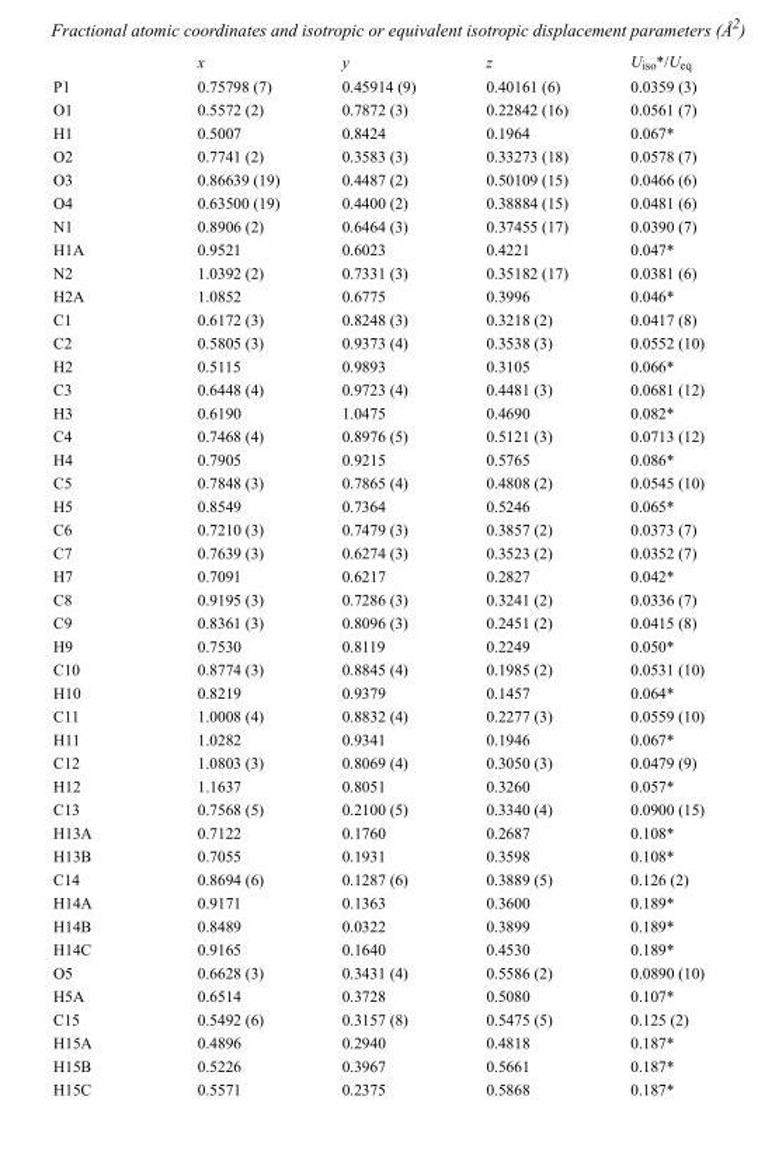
<table><thead><tr><td></td><td>x</td><td>y</td><td>z</td><td>U<sub>iso</sub>*/U<sub>eq</sub></td></tr></thead><tbody><tr><td>P1</td><td>0.75798 (7)</td><td>0.45914 (9)</td><td>0.40161 (6)</td><td>0.0359 (3)</td></tr><tr><td>O1</td><td>0.5572 (2)</td><td>0.7872 (3)</td><td>0.22842 (16)</td><td>0.0561 (7)</td></tr><tr><td>H1</td><td>0.5007</td><td>0.8424</td><td>0.1964</td><td>0.067*</td></tr><tr><td>O2</td><td>0.7741 (2)</td><td>0.3583 (3)</td><td>0.33273 (18)</td><td>0.0578 (7)</td></tr><tr><td>O3</td><td>0.86639 (19)</td><td>0.4487 (2)</td><td>0.50109 (15)</td><td>0.0466 (6)</td></tr><tr><td>O4</td><td>0.63500 (19)</td><td>0.4400 (2)</td><td>0.38884 (15)</td><td>0.0481 (6)</td></tr><tr><td>N1</td><td>0.8906 (2)</td><td>0.6464 (3)</td><td>0.37455 (17)</td><td>0.0390 (7)</td></tr><tr><td>H1A</td><td>0.9521</td><td>0.6023</td><td>0.4221</td><td>0.047*</td></tr><tr><td>N2</td><td>1.0392 (2)</td><td>0.7331 (3)</td><td>0.35182 (17)</td><td>0.0381 (6)</td></tr><tr><td>H2A</td><td>1.0852</td><td>0.6775</td><td>0.3996</td><td>0.046*</td></tr><tr><td>C1</td><td>0.6172 (3)</td><td>0.8248 (3)</td><td>0.3218 (2)</td><td>0.0417 (8)</td></tr><tr><td>C2</td><td>0.5805 (3)</td><td>0.9373 (4)</td><td>0.3538 (3)</td><td>0.0552 (10)</td></tr><tr><td>H2</td><td>0.5115</td><td>0.9893</td><td>0.3105</td><td>0.066*</td></tr><tr><td>C3</td><td>0.6448 (4)</td><td>0.9723 (4)</td><td>0.4481 (3)</td><td>0.0681 (12)</td></tr><tr><td>H3</td><td>0.6190</td><td>1.0475</td><td>0.4690</td><td>0.082*</td></tr><tr><td>C4</td><td>0.7468 (4)</td><td>0.8976 (5)</td><td>0.5121 (3)</td><td>0.0713 (12)</td></tr><tr><td>H4</td><td>0.7905</td><td>0.9215</td><td>0.5765</td><td>0.086*</td></tr><tr><td>C5</td><td>0.7848 (3)</td><td>0.7865 (4)</td><td>0.4808 (2)</td><td>0.0545 (10)</td></tr><tr><td>H5</td><td>0.8549</td><td>0.7364</td><td>0.5246</td><td>0.065*</td></tr><tr><td>C6</td><td>0.7210 (3)</td><td>0.7479 (3)</td><td>0.3857 (2)</td><td>0.0373 (7)</td></tr><tr><td>C7</td><td>0.7639 (3)</td><td>0.6274 (3)</td><td>0.3523 (2)</td><td>0.0352 (7)</td></tr><tr><td>H7</td><td>0.7091</td><td>0.6217</td><td>0.2827</td><td>0.042*</td></tr><tr><td>C8</td><td>0.9195 (3)</td><td>0.7286 (3)</td><td>0.3241 (2)</td><td>0.0336 (7)</td></tr><tr><td>C9</td><td>0.8361 (3)</td><td>0.8096 (3)</td><td>0.2451 (2)</td><td>0.0415 (8)</td></tr><tr><td>H9</td><td>0.7530</td><td>0.8119</td><td>0.2249</td><td>0.050*</td></tr><tr><td>C10</td><td>0.8774 (3)</td><td>0.8845 (4)</td><td>0.1985 (2)</td><td>0.0531 (10)</td></tr><tr><td>H10</td><td>0.8219</td><td>0.9379</td><td>0.1457</td><td>0.064*</td></tr><tr><td>C11</td><td>1.0008 (4)</td><td>0.8832 (4)</td><td>0.2277 (3)</td><td>0.0559 (10)</td></tr><tr><td>H11</td><td>1.0282</td><td>0.9341</td><td>0.1946</td><td>0.067*</td></tr><tr><td>C12</td><td>1.0803 (3)</td><td>0.8069 (4)</td><td>0.3050 (3)</td><td>0.0479 (9)</td></tr><tr><td>H12</td><td>1.1637</td><td>0.8051</td><td>0.3260</td><td>0.057*</td></tr><tr><td>C13</td><td>0.7568 (5)</td><td>0.2100 (5)</td><td>0.3340 (4)</td><td>0.0900 (15)</td></tr><tr><td>H13A</td><td>0.7122</td><td>0.1760</td><td>0.2687</td><td>0.108*</td></tr><tr><td>H13B</td><td>0.7055</td><td>0.1931</td><td>0.3598</td><td>0.108*</td></tr><tr><td>C14</td><td>0.8694 (6)</td><td>0.1287 (6)</td><td>0.3889 (5)</td><td>0.126 (2)</td></tr><tr><td>H14A</td><td>0.9171</td><td>0.1363</td><td>0.3600</td><td>0.189*</td></tr><tr><td>H14B</td><td>0.8489</td><td>0.0322</td><td>0.3899</td><td>0.189*</td></tr><tr><td>H14C</td><td>0.9165</td><td>0.1640</td><td>0.4530</td><td>0.189*</td></tr><tr><td>O5</td><td>0.6628 (3)</td><td>0.3431 (4)</td><td>0.5586 (2)</td><td>0.0890 (10)</td></tr><tr><td>H5A</td><td>0.6514</td><td>0.3728</td><td>0.5080</td><td>0.107*</td></tr><tr><td>C15</td><td>0.5492 (6)</td><td>0.3157 (8)</td><td>0.5475 (5)</td><td>0.125 (2)</td></tr><tr><td>H15A</td><td>0.4896</td><td>0.2940</td><td>0.4818</td><td>0.187*</td></tr><tr><td>H15B</td><td>0.5226</td><td>0.3967</td><td>0.5661</td><td>0.187*</td></tr><tr><td>H15C</td><td>0.5571</td><td>0.2375</td><td>0.5868</td><td>0.187*</td></tr></tbody></table>